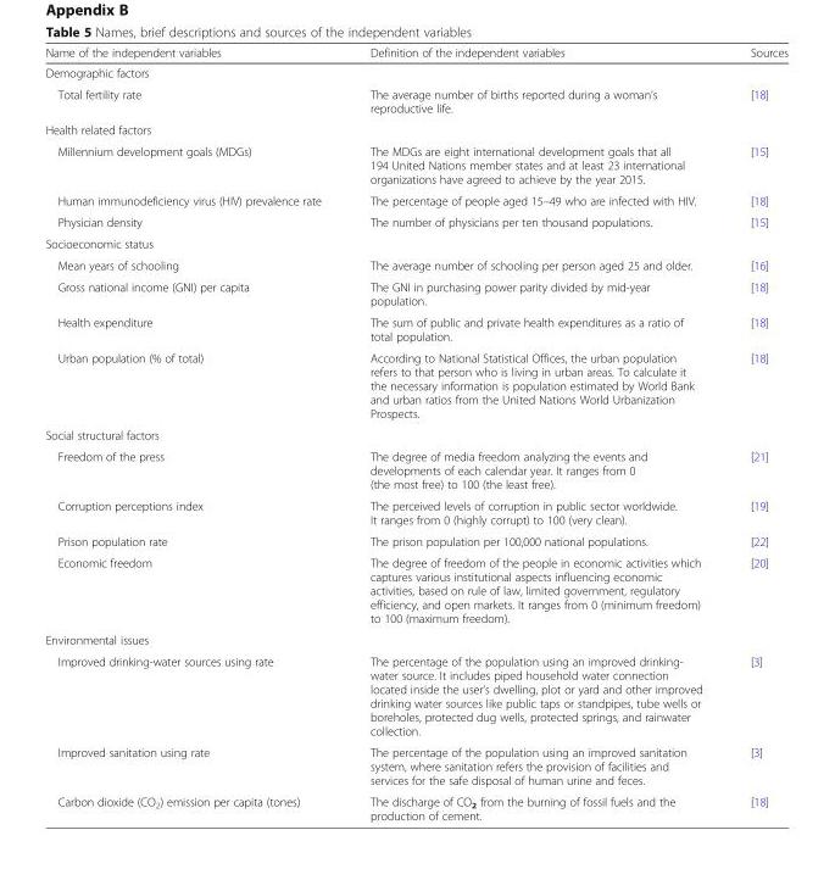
<table><thead><tr><td>Name of the independent variables</td><td>Definition of the independent variables</td><td>Sources</td></tr></thead><tbody><tr><td colspan="3">Demographic factors</td></tr><tr><td>Total fertility rate</td><td>The average number of births reported during a woman’s reproductive life.</td><td>[18]</td></tr><tr><td colspan="3">Health related factors</td></tr><tr><td>Millennium development goals (MDGs)</td><td>The MDGs are eight international development goals that all 194 United Nations member states and at least 23 international organizations have agreed to achieve by the year 2015.</td><td>[15]</td></tr><tr><td>Human immunodeficiency virus (HIV) prevalence rate</td><td>The percentage of people aged 15–49 who are infected with HIV.</td><td>[18]</td></tr><tr><td>Physician density</td><td>The number of physicians per ten thousand populations.</td><td>[15]</td></tr><tr><td colspan="3">Socioeconomic status</td></tr><tr><td>Mean years of schooling</td><td>The average number of schooling per person aged 25 and older.</td><td>[16]</td></tr><tr><td>Gross national income (GNI) per capita</td><td>The GNI in purchasing power parity divided by mid-year population.</td><td>[18]</td></tr><tr><td>Health expenditure</td><td>The sum of public and private health expenditures as a ratio of total population.</td><td>[18]</td></tr><tr><td>Urban population (% of total)</td><td>According to National Statistical Offices, the urban population refers to that person who is living in urban areas. To calculate it the necessary information is population estimated by World Bank and urban ratios from the United Nations World Urbanization Prospects.</td><td>[18]</td></tr><tr><td colspan="3">Social structural factors</td></tr><tr><td>Freedom of the press</td><td>The degree of media freedom analyzing the events and developments of each calendar year. It ranges from 0 (the most free) to 100 (the least free).</td><td>[21]</td></tr><tr><td>Corruption perceptions index</td><td>The perceived levels of corruption in public sector worldwide. It ranges from 0 (highly corrupt) to 100 (very clean).</td><td>[19]</td></tr><tr><td>Prison population rate</td><td>The prison population per 100,000 national populations.</td><td>[22]</td></tr><tr><td>Economic freedom</td><td>The degree of freedom of the people in economic activities which captures various institutional aspects influencing economic activities, based on rule of law, limited government, regulatory efficiency, and open markets. It ranges from 0 (minimum freedom) to 100 (maximum freedom).</td><td>[20]</td></tr><tr><td colspan="3">Environmental issues</td></tr><tr><td>Improved drinking-water sources using rate</td><td>The percentage of the population using an improved drinking- water source. It includes piped household water connection located inside the user’s dwelling, plot or yard and other improved drinking water sources like public taps or standpipes, tube wells or boreholes, protected dug wells, protected springs, and rainwater collection.</td><td>[3]</td></tr><tr><td>Improved sanitation using rate</td><td>The percentage of the population using an improved sanitation system, where sanitation refers the provision of facilities and services for the safe disposal of human urine and feces.</td><td>[3]</td></tr><tr><td>Carbon dioxide (CO<sub>2</sub>) emission per capita (tones)</td><td>The discharge of CO<sub>2</sub> from the burning of fossil fuels and the production of cement.</td><td>[18]</td></tr></tbody></table>